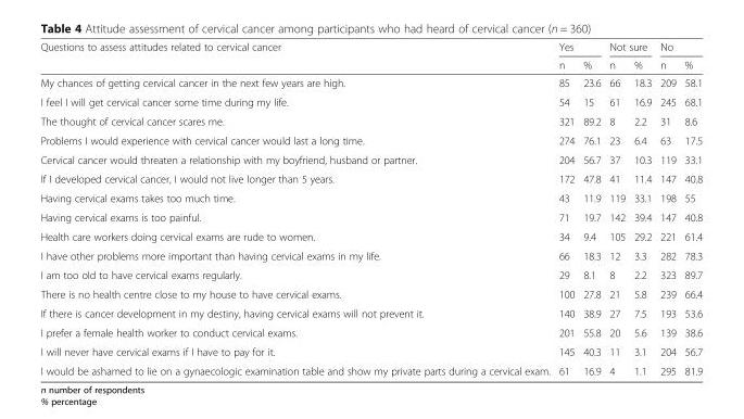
<table><thead><tr><td rowspan="2">Questions to assess attitudes related to cervical cancer</td><td colspan="2">Yes</td><td colspan="2">Not sure</td><td colspan="2">No</td></tr><tr><td>n</td><td>%</td><td>n</td><td>%</td><td>n</td><td>%</td></tr></thead><tbody><tr><td>My chances of getting cervical cancer in the next few years are high.</td><td>85</td><td>23.6</td><td>66</td><td>18.3</td><td>209</td><td>58.1</td></tr><tr><td>I feel I will get cervical cancer some time during my life.</td><td>54</td><td>15</td><td>61</td><td>16.9</td><td>245</td><td>68.1</td></tr><tr><td>The thought of cervical cancer scares me.</td><td>321</td><td>89.2</td><td>8</td><td>2.2</td><td>31</td><td>8.6</td></tr><tr><td>Problems I would experience with cervical cancer would last a long time.</td><td>274</td><td>76.1</td><td>23</td><td>6.4</td><td>63</td><td>17.5</td></tr><tr><td>Cervical cancer would threaten a relationship with my boyfriend, husband or partner.</td><td>204</td><td>56.7</td><td>37</td><td>10.3</td><td>119</td><td>33.1</td></tr><tr><td>If I developed cervical cancer, I would not live longer than 5 years.</td><td>172</td><td>47.8</td><td>41</td><td>11.4</td><td>147</td><td>40.8</td></tr><tr><td>Having cervical exams takes too much time.</td><td>43</td><td>11.9</td><td>119</td><td>33.1</td><td>198</td><td>55</td></tr><tr><td>Having cervical exams is too painful.</td><td>71</td><td>19.7</td><td>142</td><td>39.4</td><td>147</td><td>40.8</td></tr><tr><td>Health care workers doing cervical exams are rude to women.</td><td>34</td><td>9.4</td><td>105</td><td>29.2</td><td>221</td><td>61.4</td></tr><tr><td>I have other problems more important than having cervical exams in my life.</td><td>66</td><td>18.3</td><td>12</td><td>3.3</td><td>282</td><td>78.3</td></tr><tr><td>I am too old to have cervical exams regularly.</td><td>29</td><td>8.1</td><td>8</td><td>2.2</td><td>323</td><td>89.7</td></tr><tr><td>There is no health centre close to my house to have cervical exams.</td><td>100</td><td>27.8</td><td>21</td><td>5.8</td><td>239</td><td>66.4</td></tr><tr><td>If there is cancer development in my destiny, having cervical exams will not prevent it.</td><td>140</td><td>38.9</td><td>27</td><td>7.5</td><td>193</td><td>53.6</td></tr><tr><td>I prefer a female health worker to conduct cervical exams.</td><td>201</td><td>55.8</td><td>20</td><td>5.6</td><td>139</td><td>38.6</td></tr><tr><td>I will never have cervical exams if I have to pay for it.</td><td>145</td><td>40.3</td><td>11</td><td>3.1</td><td>204</td><td>56.7</td></tr><tr><td>I would be ashamed to lie on a gynaecologic examination table and show my private parts during a cervical exam.</td><td>61</td><td>16.9</td><td>4</td><td>1.1</td><td>295</td><td>81.9</td></tr></tbody></table>